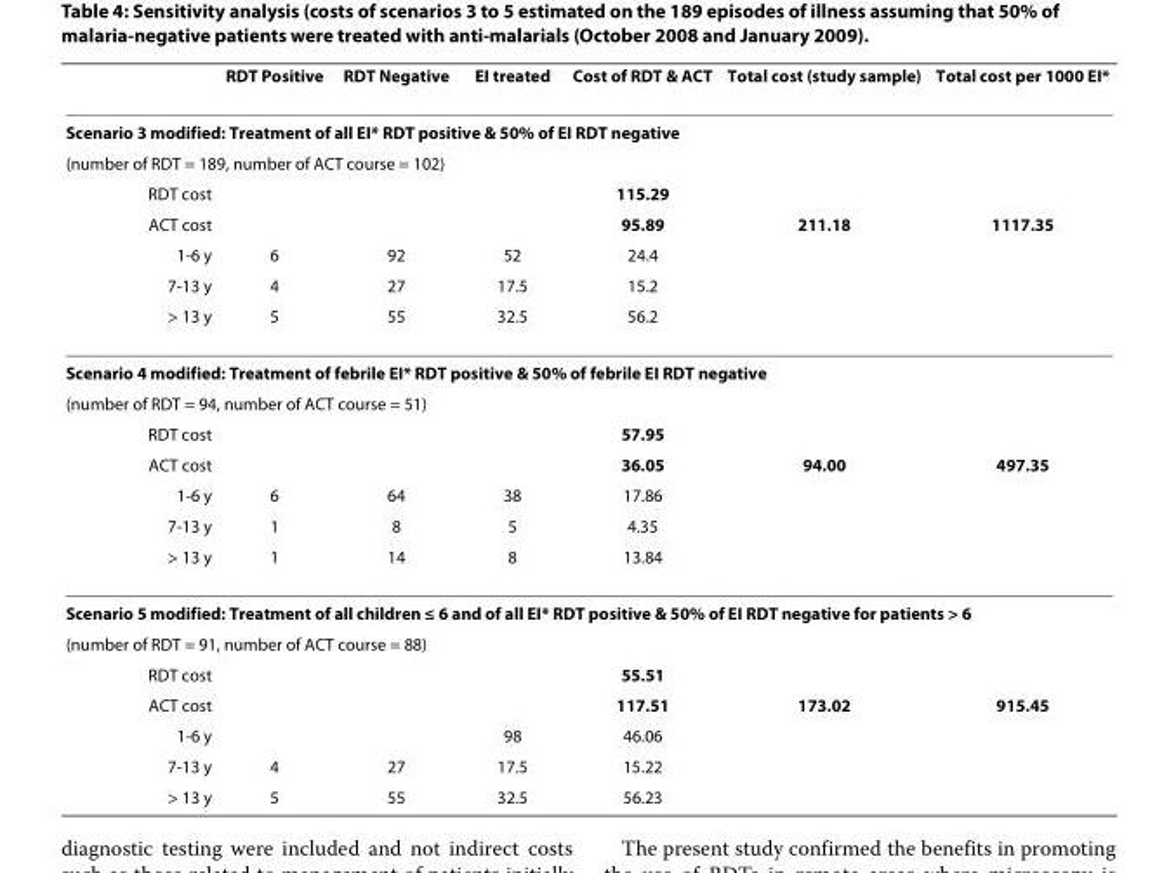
<table><thead><tr><td></td><td>RDT Positive</td><td>RDT Negative</td><td>EI treated</td><td>Cost of RDT &amp; ACT</td><td>Total cost (study sample)</td><td>Total cost per 1000 EI*</td></tr></thead><tbody><tr><td colspan="7">Scenario 3 modified: Treatment of all EI* RDT positive &amp; 50% of EI RDT negative</td></tr><tr><td colspan="7">(number of RDT = 189, number of ACT course = 102)</td></tr><tr><td>RDT cost</td><td></td><td></td><td></td><td>115.29</td><td></td><td></td></tr><tr><td>ACT cost</td><td></td><td></td><td></td><td>95.89</td><td>211.18</td><td>1117.35</td></tr><tr><td>1-6 y</td><td>6</td><td>92</td><td>52</td><td>24.4</td><td></td><td></td></tr><tr><td>7-13 y</td><td>4</td><td>27</td><td>17.5</td><td>15.2</td><td></td><td></td></tr><tr><td>&gt; 13 y</td><td>5</td><td>55</td><td>32.5</td><td>56.2</td><td></td><td></td></tr><tr><td colspan="7">Scenario 4 modified: Treatment of febrile EI* RDT positive &amp; 50% of febrile EI RDT negative</td></tr><tr><td colspan="7">(number of RDT = 94, number of ACT course = 51)</td></tr><tr><td>RDT cost</td><td></td><td></td><td></td><td>57.95</td><td></td><td></td></tr><tr><td>ACT cost</td><td></td><td></td><td></td><td>36.05</td><td>94.00</td><td>497.35</td></tr><tr><td>1-6 y</td><td>6</td><td>64</td><td>38</td><td>17.86</td><td></td><td></td></tr><tr><td>7-13 y</td><td>1</td><td>8</td><td>5</td><td>4.35</td><td></td><td></td></tr><tr><td>&gt; 13 y</td><td>1</td><td>14</td><td>8</td><td>13.84</td><td></td><td></td></tr><tr><td colspan="7">Scenario 5 modified: Treatment of all children ≤ 6 and of all EI* RDT positive &amp; 50% of EI RDT negative for patients &gt; 6</td></tr><tr><td colspan="7">(number of RDT = 91, number of ACT course = 88)</td></tr><tr><td>RDT cost</td><td></td><td></td><td></td><td>55.51</td><td></td><td></td></tr><tr><td>ACT cost</td><td></td><td></td><td></td><td>117.51</td><td>173.02</td><td>915.45</td></tr><tr><td>1-6 y</td><td></td><td></td><td>98</td><td>46.06</td><td></td><td></td></tr><tr><td>7-13 y</td><td>4</td><td>27</td><td>17.5</td><td>15.22</td><td></td><td></td></tr><tr><td>&gt; 13 y</td><td>5</td><td>55</td><td>32.5</td><td>56.23</td><td></td><td></td></tr></tbody></table>